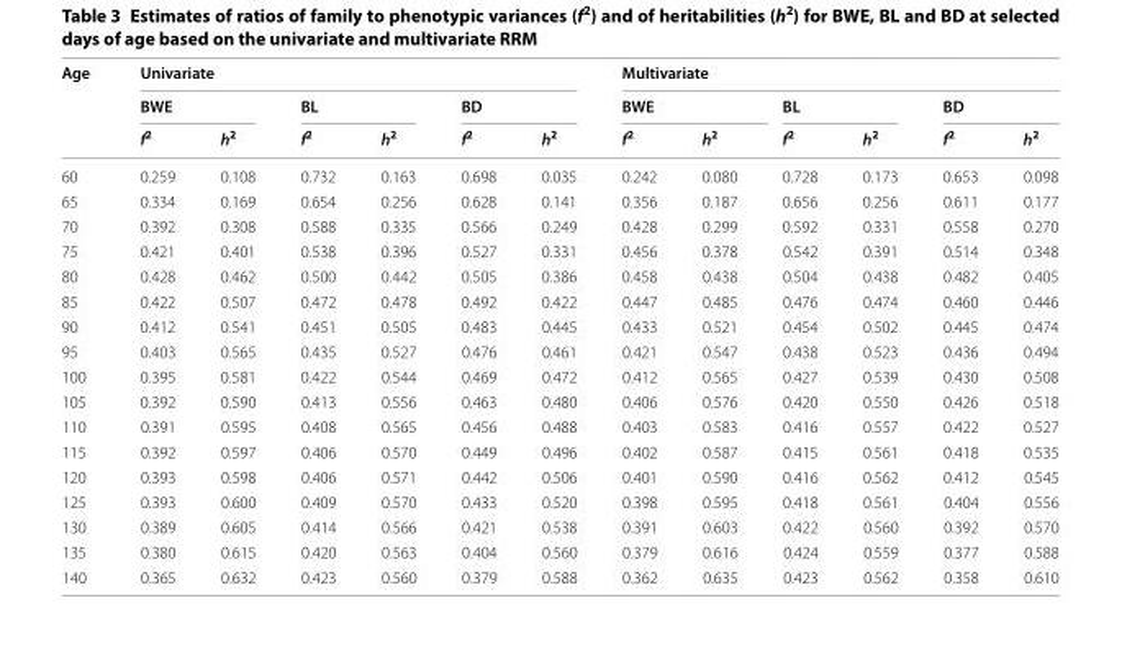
<table><thead><tr><td rowspan="3">Age</td><td colspan="6">Univariate</td><td colspan="6">Multivariate</td></tr><tr><td colspan="2">BWE</td><td colspan="2">BL</td><td colspan="2">BD</td><td colspan="2">BWE</td><td colspan="2">BL</td><td colspan="2">BD</td></tr><tr><td>f<sup>2</sup></td><td>h<sup>2</sup></td><td>f<sup>2</sup></td><td>h<sup>2</sup></td><td>f<sup>2</sup></td><td>h<sup>2</sup></td><td>f<sup>2</sup></td><td>h<sup>2</sup></td><td>f<sup>2</sup></td><td>h<sup>2</sup></td><td>f<sup>2</sup></td><td>h<sup>2</sup></td></tr></thead><tbody><tr><td>60</td><td>0.259</td><td>0.108</td><td>0.732</td><td>0.163</td><td>0.698</td><td>0.035</td><td>0.242</td><td>0.080</td><td>0.728</td><td>0.173</td><td>0.653</td><td>0.098</td></tr><tr><td>65</td><td>0.334</td><td>0.169</td><td>0.654</td><td>0.256</td><td>0.628</td><td>0.141</td><td>0.356</td><td>0.187</td><td>0.656</td><td>0.256</td><td>0.611</td><td>0.177</td></tr><tr><td>70</td><td>0.392</td><td>0.308</td><td>0.588</td><td>0.335</td><td>0.566</td><td>0.249</td><td>0.428</td><td>0.299</td><td>0.592</td><td>0.331</td><td>0.558</td><td>0.270</td></tr><tr><td>75</td><td>0.421</td><td>0.401</td><td>0.538</td><td>0.396</td><td>0.527</td><td>0.331</td><td>0.456</td><td>0.378</td><td>0.542</td><td>0.391</td><td>0.514</td><td>0.348</td></tr><tr><td>80</td><td>0.428</td><td>0.462</td><td>0.500</td><td>0.442</td><td>0.505</td><td>0.386</td><td>0.458</td><td>0.438</td><td>0.504</td><td>0.438</td><td>0.482</td><td>0.405</td></tr><tr><td>85</td><td>0.422</td><td>0.507</td><td>0.472</td><td>0.478</td><td>0.492</td><td>0.422</td><td>0.447</td><td>0.485</td><td>0.476</td><td>0.474</td><td>0.460</td><td>0.446</td></tr><tr><td>90</td><td>0.412</td><td>0.541</td><td>0.451</td><td>0.505</td><td>0.483</td><td>0.445</td><td>0.433</td><td>0.521</td><td>0.454</td><td>0.502</td><td>0.445</td><td>0.474</td></tr><tr><td>95</td><td>0.403</td><td>0.565</td><td>0.435</td><td>0.527</td><td>0.476</td><td>0.461</td><td>0.421</td><td>0.547</td><td>0.438</td><td>0.523</td><td>0.436</td><td>0.494</td></tr><tr><td>100</td><td>0.395</td><td>0.581</td><td>0.422</td><td>0.544</td><td>0.469</td><td>0.472</td><td>0.412</td><td>0.565</td><td>0.427</td><td>0.539</td><td>0.430</td><td>0.508</td></tr><tr><td>105</td><td>0.392</td><td>0.590</td><td>0.413</td><td>0.556</td><td>0.463</td><td>0.480</td><td>0.406</td><td>0.576</td><td>0.420</td><td>0.550</td><td>0.426</td><td>0.518</td></tr><tr><td>110</td><td>0.391</td><td>0.595</td><td>0.408</td><td>0.565</td><td>0.456</td><td>0.488</td><td>0.403</td><td>0.583</td><td>0.416</td><td>0.557</td><td>0.422</td><td>0.527</td></tr><tr><td>115</td><td>0.392</td><td>0.597</td><td>0.406</td><td>0.570</td><td>0.449</td><td>0.496</td><td>0.402</td><td>0.587</td><td>0.415</td><td>0.561</td><td>0.418</td><td>0.535</td></tr><tr><td>120</td><td>0.393</td><td>0.598</td><td>0.406</td><td>0.571</td><td>0.442</td><td>0.506</td><td>0.401</td><td>0.590</td><td>0.416</td><td>0.562</td><td>0.412</td><td>0.545</td></tr><tr><td>125</td><td>0.393</td><td>0.600</td><td>0.409</td><td>0.570</td><td>0.433</td><td>0.520</td><td>0.398</td><td>0.595</td><td>0.418</td><td>0.561</td><td>0.404</td><td>0.556</td></tr><tr><td>130</td><td>0.389</td><td>0.605</td><td>0.414</td><td>0.566</td><td>0.421</td><td>0.538</td><td>0.391</td><td>0.603</td><td>0.422</td><td>0.560</td><td>0.392</td><td>0.570</td></tr><tr><td>135</td><td>0.380</td><td>0.615</td><td>0.420</td><td>0.563</td><td>0.404</td><td>0.560</td><td>0.379</td><td>0.616</td><td>0.424</td><td>0.559</td><td>0.377</td><td>0.588</td></tr><tr><td>140</td><td>0.365</td><td>0.632</td><td>0.423</td><td>0.560</td><td>0.379</td><td>0.588</td><td>0.362</td><td>0.635</td><td>0.423</td><td>0.562</td><td>0.358</td><td>0.610</td></tr></tbody></table>